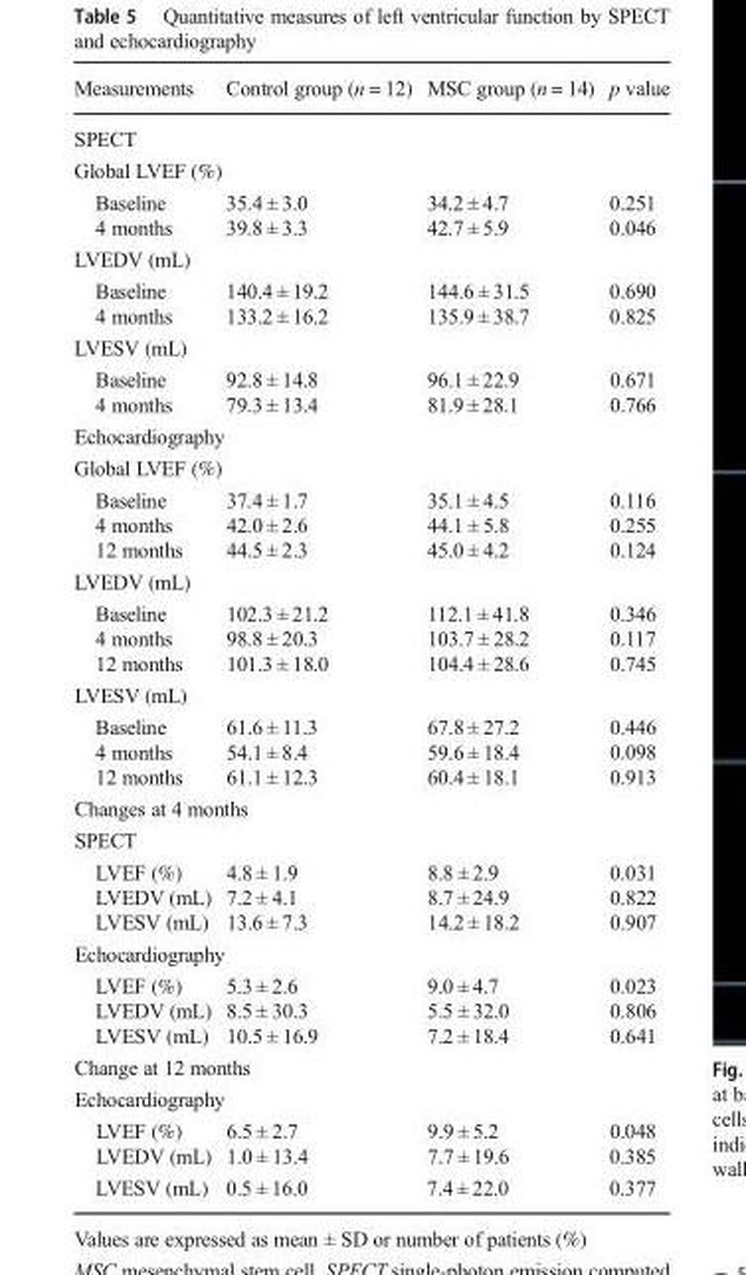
<table><thead><tr><td>Measurements</td><td>Control group (n = 12)</td><td>MSC group (n = 14)</td><td>p value</td></tr></thead><tbody><tr><td colspan="4">SPECT</td></tr><tr><td colspan="4">Global LVEF (%)</td></tr><tr><td>Baseline 4 months</td><td>35.4 ± 3.0 39.8 ± 3.3</td><td>34.2 ± 4.7 42.7 ± 5.9</td><td>0.251 0.046</td></tr><tr><td colspan="4">LVEDV (mL)</td></tr><tr><td>Baseline 4 months</td><td>140.4 ± 19.2 133.2 ± 16.2</td><td>144.6 ± 31.5 135.9 ± 38.7</td><td>0.690 0.825</td></tr><tr><td colspan="4">LVESV (mL)</td></tr><tr><td>Baseline 4 months</td><td>92.8 ± 14.8 79.3 ± 13.4</td><td>96.1 ± 22.9 81.9 ± 28.1</td><td>0.671 0.766</td></tr><tr><td colspan="4">Echocardiography</td></tr><tr><td colspan="4">Global LVEF (%)</td></tr><tr><td>Baseline 4 months 12 months</td><td>37.4 ± 1.7 42.0 ± 2.6 44.5 ± 2.3</td><td>35.1 ± 4.5 44.1 ± 5.8 45.0 ± 4.2</td><td>0.116 0.255 0.124</td></tr><tr><td colspan="4">LVEDV (mL)</td></tr><tr><td>Baseline 4 months 12 months</td><td>102.3 ± 21.2 98.8 ± 20.3 101.3 ± 18.0</td><td>112.1 ± 41.8 103.7 ± 28.2 104.4 ± 28.6</td><td>0.346 0.117 0.745</td></tr><tr><td colspan="4">LVESV (mL)</td></tr><tr><td>Baseline 4 months 12 months</td><td>61.6 ± 11.3 54.1 ± 8.4 61.1 ± 12.3</td><td>67.8 ± 27.2 59.6 ± 18.4 60.4 ± 18.1</td><td>0.446 0.098 0.913</td></tr><tr><td colspan="4">Changes at 4 months</td></tr><tr><td colspan="4">SPECT</td></tr><tr><td>LVEF (%) LVEDV (mL) LVESV (mL)</td><td>4.8 ± 1.9 7.2 ± 4.1 13.6 ± 7.3</td><td>8.8 ± 2.9 8.7 ± 24.9 14.2 ± 18.2</td><td>0.031 0.822 0.907</td></tr><tr><td colspan="4">Echocardiography</td></tr><tr><td>LVEF (%) LVEDV (mL) LVESV (mL)</td><td>5.3 ± 2.6 8.5 ± 30.3 10.5 ± 16.9</td><td>9.0 ± 4.7 5.5 ± 32.0 7.2 ± 18.4</td><td>0.023 0.806 0.641</td></tr><tr><td colspan="4">Change at 12 months</td></tr><tr><td colspan="4">Echocardiography</td></tr><tr><td>LVEF (%) LVEDV (mL)</td><td>6.5 ± 2.7 1.0 ± 13.4</td><td>9.9 ± 5.2 7.7 ± 19.6</td><td>0.048 0.385</td></tr><tr><td>LVESV (mL)</td><td>0.5 ± 16.0</td><td>7.4 ± 22.0</td><td>0.377</td></tr></tbody></table>